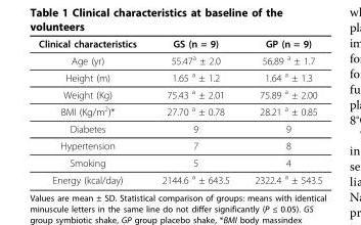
<table><thead><tr><td>Clinical characteristics</td><td>GS (n = 9)</td><td>GP (n = 9)</td></tr></thead><tbody><tr><td>Age (yr)</td><td>55.47<sup>a</sup> ± 2.0</td><td>56,89 <sup>a</sup> ± 1.7</td></tr><tr><td>Height (m)</td><td>1.65 <sup>a</sup> ± 1.2</td><td>1.64 <sup>a</sup> ± 1.3</td></tr><tr><td>Weight (Kg)</td><td>75.43 <sup>a</sup> ± 2.01</td><td>75.89 <sup>a</sup> ± 2.00</td></tr><tr><td>BMI (Kg/m<sup>2</sup>)*</td><td>27.70 <sup>a</sup> ± 0.78</td><td>28.21 <sup>a</sup> ± 0.85</td></tr><tr><td>Diabetes</td><td>9</td><td>9</td></tr><tr><td>Hypertension</td><td>7</td><td>8</td></tr><tr><td>Smoking</td><td>5</td><td>4</td></tr><tr><td>Energy (kcal/day)</td><td>2144.6 <sup>a</sup> ± 643.5</td><td>2322.4 <sup>a</sup> ± 543.5</td></tr></tbody></table>